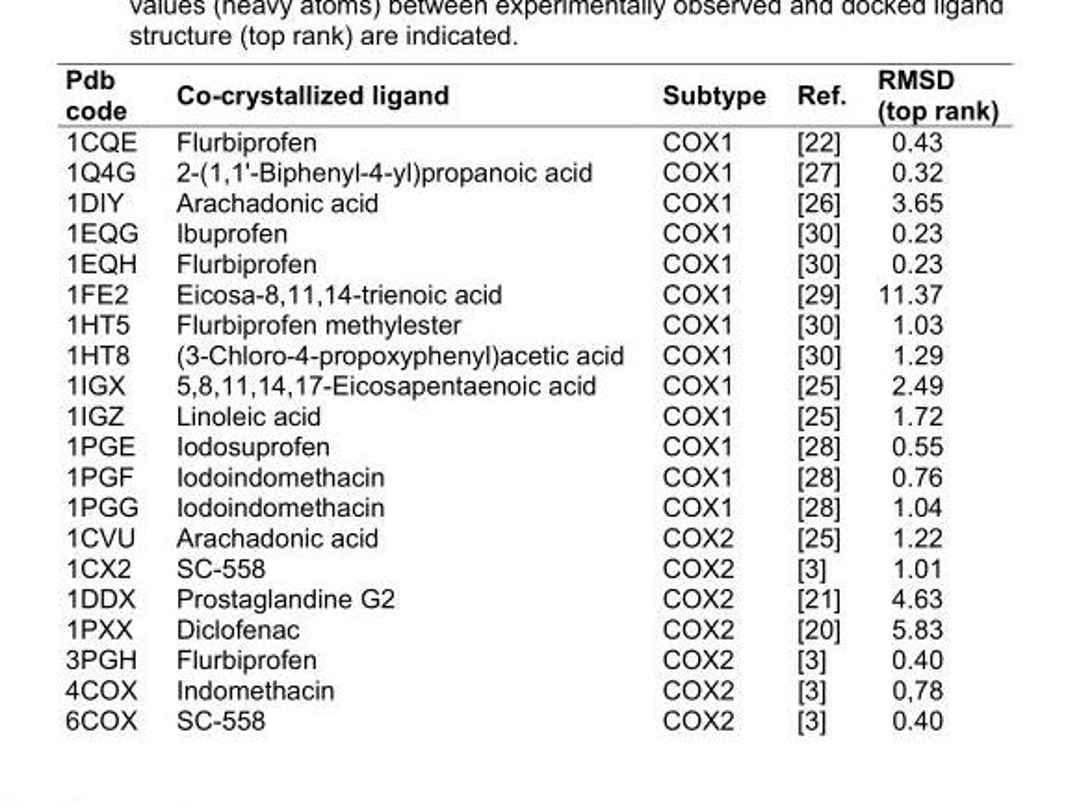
<table><thead><tr><td>Pdb code</td><td>Co-crystallized ligand</td><td>Subtype</td><td>Ref.</td><td>RMSD (top rank)</td></tr></thead><tbody><tr><td>1CQE</td><td>Flurbiprofen</td><td>COX1</td><td>[22]</td><td>0.43</td></tr><tr><td>1Q4G</td><td>2-(1,1&#x27;-Biphenyl-4-yl)propanoic acid</td><td>COX1</td><td>[27]</td><td>0.32</td></tr><tr><td>1DIY</td><td>Arachadonic acid</td><td>COX1</td><td>[26]</td><td>3.65</td></tr><tr><td>1EQG</td><td>Ibuprofen</td><td>COX1</td><td>[30]</td><td>0.23</td></tr><tr><td>1EQH</td><td>Flurbiprofen</td><td>COX1</td><td>[30]</td><td>0.23</td></tr><tr><td>1FE2</td><td>Eicosa-8,11,14-trienoic acid</td><td>COX1</td><td>[29]</td><td>11.37</td></tr><tr><td>1HT5</td><td>Flurbiprofen methylester</td><td>COX1</td><td>[30]</td><td>1.03</td></tr><tr><td>1HT8</td><td>(3-Chloro-4-propoxyphenyl)acetic acid</td><td>COX1</td><td>[30]</td><td>1.29</td></tr><tr><td>1IGX</td><td>5,8,11,14,17-Eicosapentaenoic acid</td><td>COX1</td><td>[25]</td><td>2.49</td></tr><tr><td>1IGZ</td><td>Linoleic acid</td><td>COX1</td><td>[25]</td><td>1.72</td></tr><tr><td>1PGE</td><td>Iodosuprofen</td><td>COX1</td><td>[28]</td><td>0.55</td></tr><tr><td>1PGF</td><td>Iodoindomethacin</td><td>COX1</td><td>[28]</td><td>0.76</td></tr><tr><td>1PGG</td><td>Iodoindomethacin</td><td>COX1</td><td>[28]</td><td>1.04</td></tr><tr><td>1CVU</td><td>Arachadonic acid</td><td>COX2</td><td>[25]</td><td>1.22</td></tr><tr><td>1CX2</td><td>SC-558</td><td>COX2</td><td>[3]</td><td>1.01</td></tr><tr><td>1DDX</td><td>Prostaglandine G2</td><td>COX2</td><td>[21]</td><td>4.63</td></tr><tr><td>1PXX</td><td>Diclofenac</td><td>COX2</td><td>[20]</td><td>5.83</td></tr><tr><td>3PGH</td><td>Flurbiprofen</td><td>COX2</td><td>[3]</td><td>0.40</td></tr><tr><td>4COX</td><td>Indomethacin</td><td>COX2</td><td>[3]</td><td>0,78</td></tr><tr><td>6COX</td><td>SC-558</td><td>COX2</td><td>[3]</td><td>0.40</td></tr></tbody></table>